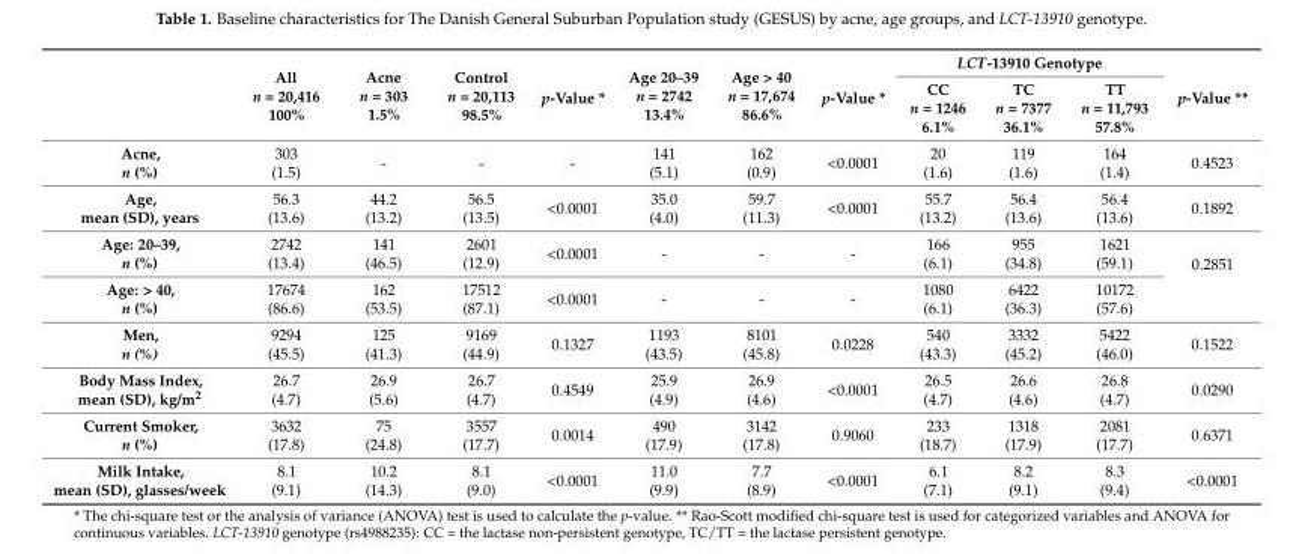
<table><thead><tr><td rowspan="2"></td><td rowspan="2">All n = 20,416 100%</td><td rowspan="2">Acne n = 303 1.5%</td><td rowspan="2">Control n = 20,113 98.5%</td><td rowspan="2">p-Value *</td><td rowspan="2">Age 20–39 n = 2742 13.4%</td><td rowspan="2">Age &gt; 40 n = 17,674 86.6%</td><td rowspan="2">p-Value *</td><td colspan="3">LCT-13910 Genotype</td><td rowspan="2">p-Value **</td></tr><tr><td>CC n = 1246 6.1%</td><td>TC n = 7377 36.1%</td><td>TT n = 11,793 57.8%</td></tr></thead><tbody><tr><td>Acne, n (%)</td><td>303 (1.5)</td><td>-</td><td>-</td><td>-</td><td>141 (5.1)</td><td>162 (0.9)</td><td>&lt;0.0001</td><td>20 (1.6)</td><td>119 (1.6)</td><td>164 (1.4)</td><td>0.4523</td></tr><tr><td>Age, mean (SD), years</td><td>56.3 (13.6)</td><td>44.2 (13.2)</td><td>56.5 (13.5)</td><td>&lt;0.0001</td><td>35.0 (4.0)</td><td>59.7 (11.3)</td><td>&lt;0.0001</td><td>55.7 (13.2)</td><td>56.4 (13.6)</td><td>56.4 (13.6)</td><td>0.1892</td></tr><tr><td>Age: 20–39, n (%)</td><td>2742 (13.4)</td><td>141 (46.5)</td><td>2601 (12.9)</td><td>&lt;0.0001</td><td>-</td><td>-</td><td>-</td><td>166 (6.1)</td><td>955 (34.8)</td><td>1621 (59.1)</td><td rowspan="2">0.2851</td></tr><tr><td>Age: &gt; 40, n (%)</td><td>17674 (86.6)</td><td>162 (53.5)</td><td>17512 (87.1)</td><td>&lt;0.0001</td><td>-</td><td>-</td><td>-</td><td>1080 (6.1)</td><td>6422 (36.3)</td><td>10172 (57.6)</td></tr><tr><td>Men, n (%)</td><td>9294 (45.5)</td><td>125 (41.3)</td><td>9169 (44.9)</td><td>0.1327</td><td>1193 (43.5)</td><td>8101 (45.8)</td><td>0.0228</td><td>540 (43.3)</td><td>3332 (45.2)</td><td>5422 (46.0)</td><td>0.1522</td></tr><tr><td>Body Mass Index, mean (SD), kg/m<sup>2</sup></td><td>26.7 (4.7)</td><td>26.9 (5.6)</td><td>26.7 (4.7)</td><td>0.4549</td><td>25.9 (4.9)</td><td>26.9 (4.6)</td><td>&lt;0.0001</td><td>26.5 (4.7)</td><td>26.6 (4.6)</td><td>26.8 (4.7)</td><td>0.0290</td></tr><tr><td>Current Smoker, n (%)</td><td>3632 (17.8)</td><td>75 (24.8)</td><td>3557 (17.7)</td><td>0.0014</td><td>490 (17.9)</td><td>3142 (17.8)</td><td>0.9060</td><td>233 (18.7)</td><td>1318 (17.9)</td><td>2081 (17.7)</td><td>0.6371</td></tr><tr><td>Milk Intake, mean (SD), glasses/week</td><td>8.1 (9.1)</td><td>10.2 (14.3)</td><td>8.1 (9.0)</td><td>&lt;0.0001</td><td>11.0 (9.9)</td><td>7.7 (8.9)</td><td>&lt;0.0001</td><td>6.1 (7.1)</td><td>8.2 (9.1)</td><td>8.3 (9.4)</td><td>&lt;0.0001</td></tr></tbody></table>